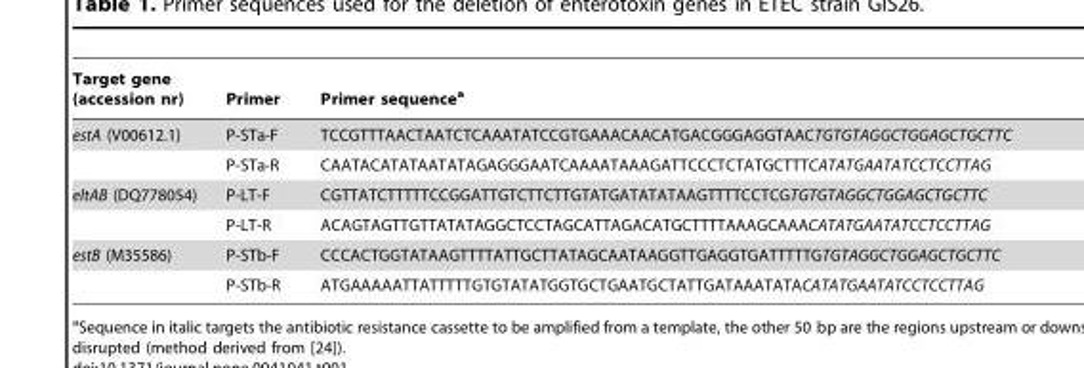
<table><thead><tr><td>Target gene (accession nr)</td><td>Primer</td><td>Primer sequence<sup>a</sup></td></tr></thead><tbody><tr><td rowspan="2">estA (V00612.1)</td><td>P-STa-F</td><td>TCCGTTTAACTAATCTCAAATATCCGTGAAACAACATGACGGGAGGTAACTGTGTAGGCTGGAGCTGCTTC</td></tr><tr><td>P-STa-R</td><td>CAATACATATAATATAGAGGGAATCAAAATAAAGATTCCCTCTATGCTTTCATATGAATATCCTCCTTAG</td></tr><tr><td rowspan="2">eltAB (DQ778054)</td><td>P-LT-F</td><td>CGTTATCTTTTTCCGGATTGTCTTCTTGTATGATATATAAGTTTTCCTCGTGTGTAGGCTGGAGCTGCTTC</td></tr><tr><td>P-LT-R</td><td>ACAGTAGTTGTTATATAGGCTCCTAGCATTAGACATGCTTTTAAAGCAAACATATGAATATCCTCCTTAG</td></tr><tr><td rowspan="2">estB (M35586)</td><td>P-STb-F</td><td>CCCACTGGTATAAGTTTTATTGCTTATAGCAATAAGGTTGAGGTGATTTTTGTGTAGGCTGGAGCTGCTTC</td></tr><tr><td>P-STb-R</td><td>ATGAAAAATTATTTTTGTGTATATGGTGCTGAATGCTATTGATAAATATACATATGAATATCCTCCTTAG</td></tr></tbody></table>